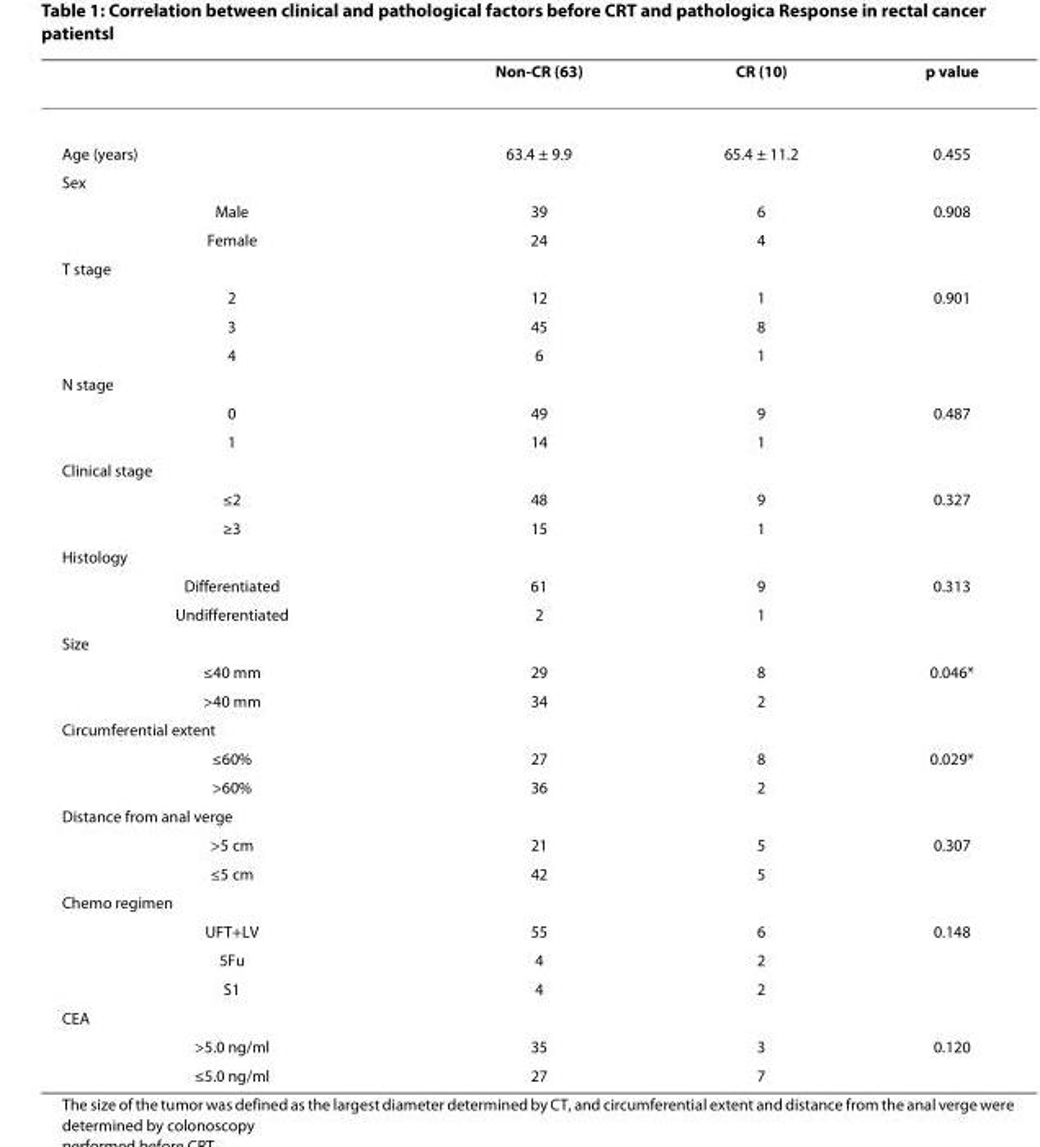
<table><thead><tr><td></td><td>Non-CR (63)</td><td>CR (10)</td><td>p value</td></tr></thead><tbody><tr><td>Age (years)</td><td>63.4 ± 9.9</td><td>65.4 ± 11.2</td><td>0.455</td></tr><tr><td colspan="4">Sex</td></tr><tr><td>Male</td><td>39</td><td>6</td><td>0.908</td></tr><tr><td>Female</td><td>24</td><td>4</td><td></td></tr><tr><td colspan="4">T stage</td></tr><tr><td>2</td><td>12</td><td>1</td><td>0.901</td></tr><tr><td>3</td><td>45</td><td>8</td><td></td></tr><tr><td>4</td><td>6</td><td>1</td><td></td></tr><tr><td colspan="4">N stage</td></tr><tr><td>0</td><td>49</td><td>9</td><td>0.487</td></tr><tr><td>1</td><td>14</td><td>1</td><td></td></tr><tr><td colspan="4">Clinical stage</td></tr><tr><td>≤2</td><td>48</td><td>9</td><td>0.327</td></tr><tr><td>≥3</td><td>15</td><td>1</td><td></td></tr><tr><td colspan="4">Histology</td></tr><tr><td>Differentiated</td><td>61</td><td>9</td><td>0.313</td></tr><tr><td>Undifferentiated</td><td>2</td><td>1</td><td></td></tr><tr><td colspan="4">Size</td></tr><tr><td>≤40 mm</td><td>29</td><td>8</td><td>0.046*</td></tr><tr><td>&gt;40 mm</td><td>34</td><td>2</td><td></td></tr><tr><td colspan="4">Circumferential extent</td></tr><tr><td>≤60%</td><td>27</td><td>8</td><td>0.029*</td></tr><tr><td>&gt;60%</td><td>36</td><td>2</td><td></td></tr><tr><td colspan="4">Distance from anal verge</td></tr><tr><td>&gt;5 cm</td><td>21</td><td>5</td><td>0.307</td></tr><tr><td>≤5 cm</td><td>42</td><td>5</td><td></td></tr><tr><td colspan="4">Chemo regimen</td></tr><tr><td>UFT+LV</td><td>55</td><td>6</td><td>0.148</td></tr><tr><td>5Fu</td><td>4</td><td>2</td><td></td></tr><tr><td>S1</td><td>4</td><td>2</td><td></td></tr><tr><td colspan="4">CEA</td></tr><tr><td>&gt;5.0 ng/ml</td><td>35</td><td>3</td><td>0.120</td></tr><tr><td>≤5.0 ng/ml</td><td>27</td><td>7</td><td></td></tr></tbody></table>